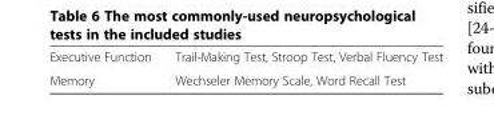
<table><tbody><tr><td>Executive Function</td><td>Trail-Making Test, Stroop Test, Verbal Fluency Test</td></tr><tr><td>Memory</td><td>Wechseler Memory Scale, Word Recall Test</td></tr></tbody></table>